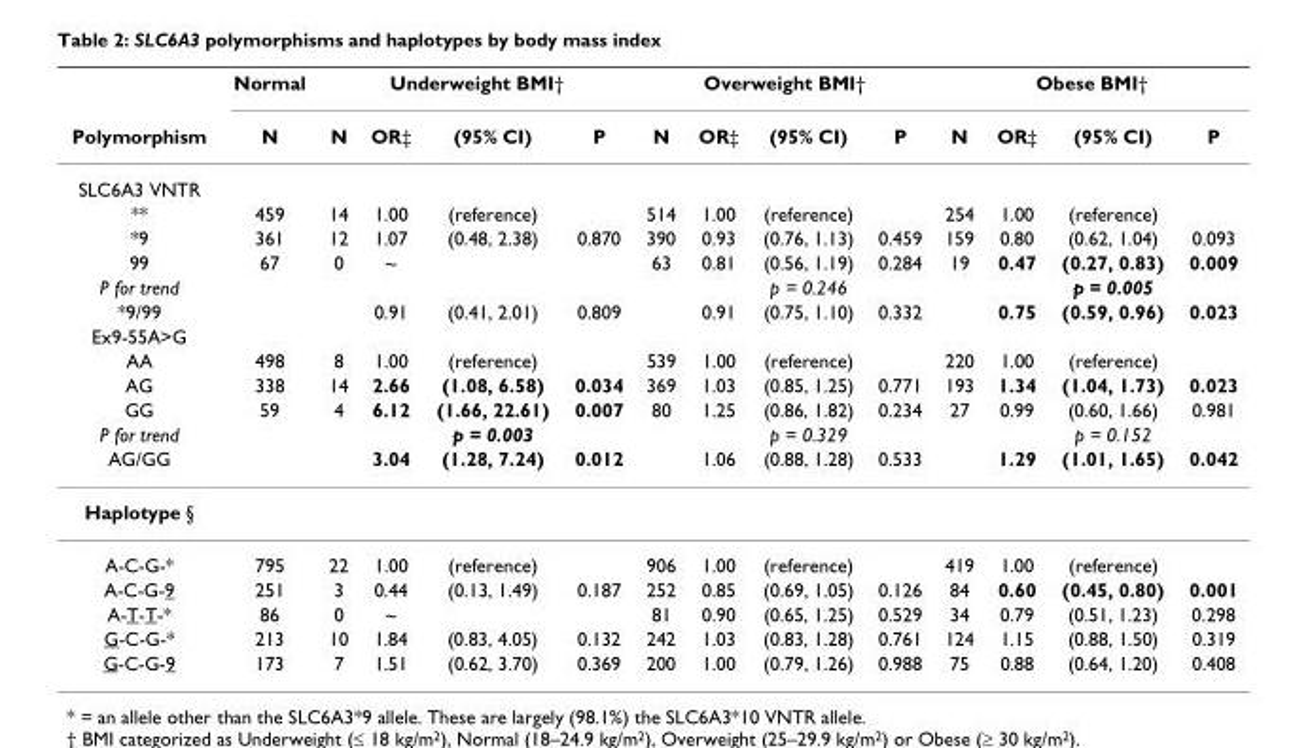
<table><thead><tr><td rowspan="2">Polymorphism</td><td rowspan="2">Normal N</td><td colspan="4">Underweight BMI†</td><td colspan="4">Overweight BMI†</td><td colspan="4">Obese BMI†</td></tr><tr><td>N</td><td>OR‡</td><td>(95% CI)</td><td>P</td><td>N</td><td>OR‡</td><td>(95% CI)</td><td>P</td><td>N</td><td>OR‡</td><td>(95% CI)</td><td>P</td></tr></thead><tbody><tr><td colspan="14">SLC6A3 VNTR</td></tr><tr><td>**</td><td>459</td><td>14</td><td>1.00</td><td>(reference)</td><td></td><td>514</td><td>1.00</td><td>(reference)</td><td></td><td>254</td><td>1.00</td><td>(reference)</td><td></td></tr><tr><td>*9</td><td>361</td><td>12</td><td>1.07</td><td>(0.48, 2.38)</td><td>0.870</td><td>390</td><td>0.93</td><td>(0.76, 1.13)</td><td>0.459</td><td>159</td><td>0.80</td><td>(0.62, 1.04)</td><td>0.093</td></tr><tr><td>99</td><td>67</td><td>0</td><td>~</td><td></td><td></td><td>63</td><td>0.81</td><td>(0.56, 1.19)</td><td>0.284</td><td>19</td><td>0.47</td><td>(0.27, 0.83)</td><td>0.009</td></tr><tr><td>P for trend</td><td></td><td></td><td></td><td></td><td></td><td></td><td></td><td>p = 0.246</td><td></td><td></td><td></td><td>p = 0.005</td><td></td></tr><tr><td>*9/99</td><td></td><td></td><td>0.91</td><td>(0.41, 2.01)</td><td>0.809</td><td></td><td>0.91</td><td>(0.75, 1.10)</td><td>0.332</td><td></td><td>0.75</td><td>(0.59, 0.96)</td><td>0.023</td></tr><tr><td colspan="14">Ex9-55A&gt;G</td></tr><tr><td>AA</td><td>498</td><td>8</td><td>1.00</td><td>(reference)</td><td></td><td>539</td><td>1.00</td><td>(reference)</td><td></td><td>220</td><td>1.00</td><td>(reference)</td><td></td></tr><tr><td>AG</td><td>338</td><td>14</td><td>2.66</td><td>(1.08, 6.58)</td><td>0.034</td><td>369</td><td>1.03</td><td>(0.85, 1.25)</td><td>0.771</td><td>193</td><td>1.34</td><td>(1.04, 1.73)</td><td>0.023</td></tr><tr><td>GG</td><td>59</td><td>4</td><td>6.12</td><td>(1.66, 22.61)</td><td>0.007</td><td>80</td><td>1.25</td><td>(0.86, 1.82)</td><td>0.234</td><td>27</td><td>0.99</td><td>(0.60, 1.66)</td><td>0.981</td></tr><tr><td>P for trend</td><td></td><td></td><td></td><td>p = 0.003</td><td></td><td></td><td></td><td>p = 0.329</td><td></td><td></td><td></td><td>p = 0.152</td><td></td></tr><tr><td>AG/GG</td><td></td><td></td><td>3.04</td><td>(1.28, 7.24)</td><td>0.012</td><td></td><td>1.06</td><td>(0.88, 1.28)</td><td>0.533</td><td></td><td>1.29</td><td>(1.01, 1.65)</td><td>0.042</td></tr><tr><td colspan="14">Haplotype §</td></tr><tr><td>A-C-G-*</td><td>795</td><td>22</td><td>1.00</td><td>(reference)</td><td></td><td>906</td><td>1.00</td><td>(reference)</td><td></td><td>419</td><td>1.00</td><td>(reference)</td><td></td></tr><tr><td>A-C-G-9</td><td>251</td><td>3</td><td>0.44</td><td>(0.13, 1.49)</td><td>0.187</td><td>252</td><td>0.85</td><td>(0.69, 1.05)</td><td>0.126</td><td>84</td><td>0.60</td><td>(0.45, 0.80)</td><td>0.001</td></tr><tr><td>A-T-T-*</td><td>86</td><td>0</td><td>~</td><td></td><td></td><td>81</td><td>0.90</td><td>(0.65, 1.25)</td><td>0.529</td><td>34</td><td>0.79</td><td>(0.51, 1.23)</td><td>0.298</td></tr><tr><td>G-C-G-*</td><td>213</td><td>10</td><td>1.84</td><td>(0.83, 4.05)</td><td>0.132</td><td>242</td><td>1.03</td><td>(0.83, 1.28)</td><td>0.761</td><td>124</td><td>1.15</td><td>(0.88, 1.50)</td><td>0.319</td></tr><tr><td>G-C-G-9</td><td>173</td><td>7</td><td>1.51</td><td>(0.62, 3.70)</td><td>0.369</td><td>200</td><td>1.00</td><td>(0.79, 1.26)</td><td>0.988</td><td>75</td><td>0.88</td><td>(0.64, 1.20)</td><td>0.408</td></tr></tbody></table>